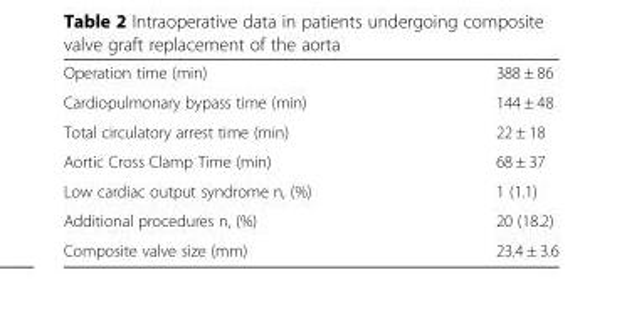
<table><tbody><tr><td>Operation time (min)</td><td>388 ± 86</td></tr><tr><td>Cardiopulmonary bypass time (min)</td><td>144 ± 48</td></tr><tr><td>Total circulatory arrest time (min)</td><td>22 ± 18</td></tr><tr><td>Aortic Cross Clamp Time (min)</td><td>68 ± 37</td></tr><tr><td>Low cardiac output syndrome n, (%)</td><td>1 (1.1)</td></tr><tr><td>Additional procedures n, (%)</td><td>20 (18.2)</td></tr><tr><td>Composite valve size (mm)</td><td>23.4 ± 3.6</td></tr></tbody></table>